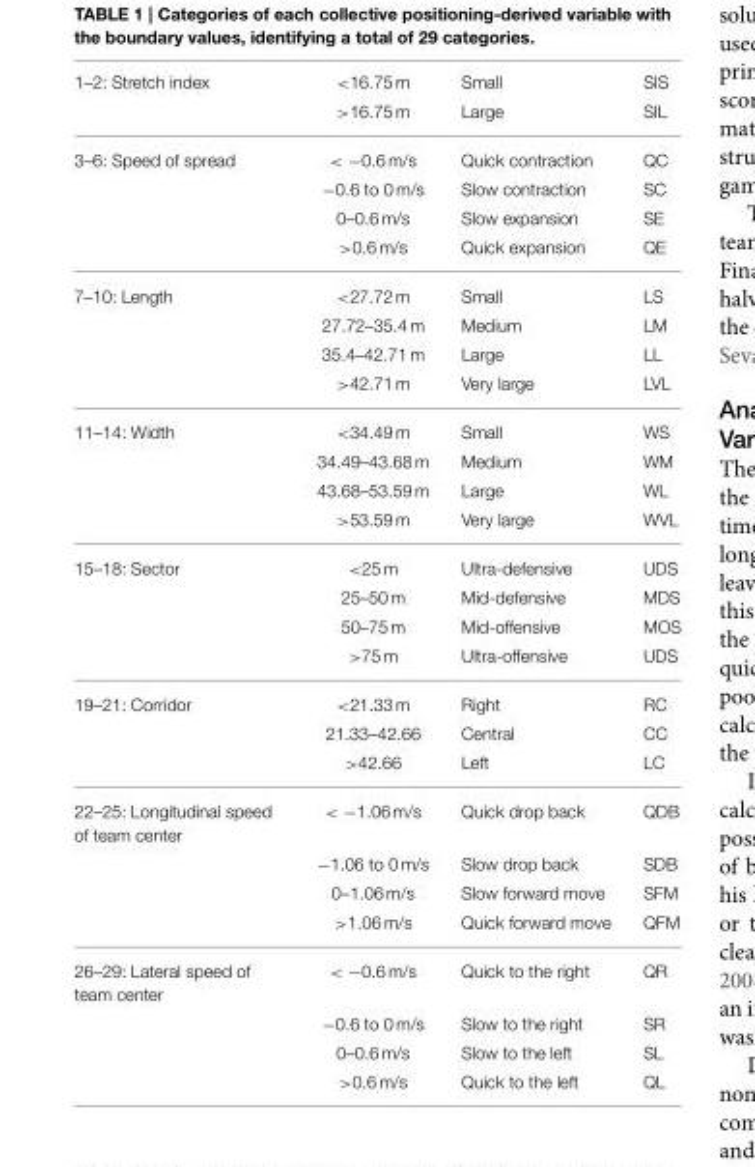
<table><tbody><tr><td rowspan="2">1–2: Stretch index</td><td>&lt;16.75 m</td><td>Small</td><td>SIS</td></tr><tr><td>&gt;16.75 m</td><td>Large</td><td>SIL</td></tr><tr><td rowspan="4">3–6: Speed of spread</td><td>&lt; −0.6 m/s</td><td>Quick contraction</td><td>QC</td></tr><tr><td>−0.6 to 0 m/s</td><td>Slow contraction</td><td>SC</td></tr><tr><td>0–0.6 m/s</td><td>Slow expansion</td><td>SE</td></tr><tr><td>&gt;0.6 m/s</td><td>Quick expansion</td><td>QE</td></tr><tr><td rowspan="4">7–10: Length</td><td>&lt;27.72 m</td><td>Small</td><td>LS</td></tr><tr><td>27.72–35.4 m</td><td>Medium</td><td>LM</td></tr><tr><td>35.4–42.71 m</td><td>Large</td><td>LL</td></tr><tr><td>&gt;42.71 m</td><td>Very large</td><td>LVL</td></tr><tr><td rowspan="4">11–14: Width</td><td>&lt;34.49 m</td><td>Small</td><td>WS</td></tr><tr><td>34.49–43.68 m</td><td>Medium</td><td>WM</td></tr><tr><td>43.68–53.59 m</td><td>Large</td><td>WL</td></tr><tr><td>&gt;53.59 m</td><td>Very large</td><td>WVL</td></tr><tr><td rowspan="4">15–18: Sector</td><td>&lt;25 m</td><td>Ultra-defensive</td><td>UDS</td></tr><tr><td>25–50 m</td><td>Mid-defensive</td><td>MDS</td></tr><tr><td>50–75 m</td><td>Mid-offensive</td><td>MOS</td></tr><tr><td>&gt;75 m</td><td>Ultra-offensive</td><td>UDS</td></tr><tr><td rowspan="3">19–21: Corridor</td><td>&lt;21.33 m</td><td>Right</td><td>RC</td></tr><tr><td>21.33–42.66</td><td>Central</td><td>CC</td></tr><tr><td>&gt;42.66</td><td>Left</td><td>LC</td></tr><tr><td rowspan="4">22–25: Longitudinal speed of team center</td><td>&lt; −1.06 m/s</td><td>Quick drop back</td><td>QDB</td></tr><tr><td>−1.06 to 0 m/s</td><td>Slow drop back</td><td>SDB</td></tr><tr><td>0–1.06 m/s</td><td>Slow forward move</td><td>SFM</td></tr><tr><td>&gt;1.06 m/s</td><td>Quick forward move</td><td>QFM</td></tr><tr><td rowspan="4">26–29: Lateral speed of team center</td><td>&lt; −0.6 m/s</td><td>Quick to the right</td><td>QR</td></tr><tr><td>−0.6 to 0 m/s</td><td>Slow to the right</td><td>SR</td></tr><tr><td>0–0.6 m/s</td><td>Slow to the left</td><td>SL</td></tr><tr><td>&gt;0.6 m/s</td><td>Quick to the left</td><td>QL</td></tr></tbody></table>